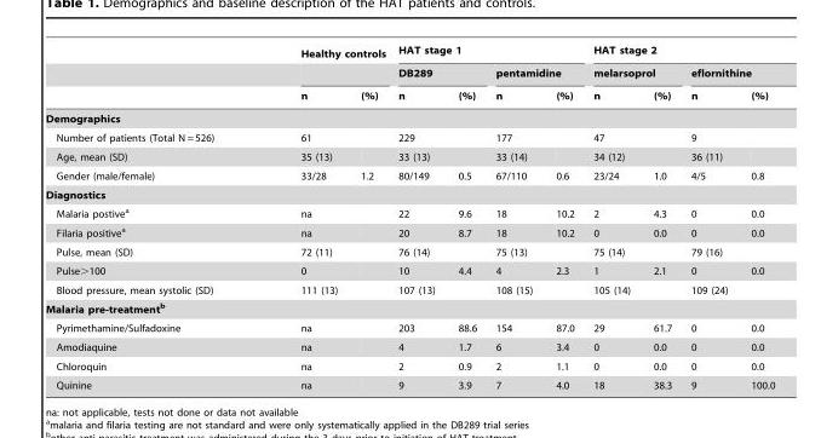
<table><thead><tr><td rowspan="3"></td><td colspan="2">Healthy controls</td><td colspan="4">HAT stage 1</td><td colspan="4">HAT stage 2</td></tr><tr><td rowspan="2">n</td><td rowspan="2">(%)</td><td colspan="2">DB289</td><td colspan="2">pentamidine</td><td colspan="2">melarsoprol</td><td colspan="2">eflornithine</td></tr><tr><td>n</td><td>(%)</td><td>n</td><td>(%)</td><td>n</td><td>(%)</td><td>n</td><td>(%)</td></tr></thead><tbody><tr><td colspan="11">Demographics</td></tr><tr><td>Number of patients (Total N = 526)</td><td>61</td><td></td><td>229</td><td></td><td>177</td><td></td><td>47</td><td></td><td>9</td><td></td></tr><tr><td>Age, mean (SD)</td><td>35 (13)</td><td></td><td>33 (13)</td><td></td><td>33 (14)</td><td></td><td>34 (12)</td><td></td><td>36 (11)</td><td></td></tr><tr><td>Gender (male/female)</td><td>33/28</td><td>1.2</td><td>80/149</td><td>0.5</td><td>67/110</td><td>0.6</td><td>23/24</td><td>1.0</td><td>4/5</td><td>0.8</td></tr><tr><td colspan="11">Diagnostics</td></tr><tr><td>Malaria postive<sup>a</sup></td><td>na</td><td></td><td>22</td><td>9.6</td><td>18</td><td>10.2</td><td>2</td><td>4.3</td><td>0</td><td>0.0</td></tr><tr><td>Filaria positive<sup>a</sup></td><td>na</td><td></td><td>20</td><td>8.7</td><td>18</td><td>10.2</td><td>0</td><td>0.0</td><td>0</td><td>0.0</td></tr><tr><td>Pulse, mean (SD)</td><td>72 (11)</td><td></td><td>76 (14)</td><td></td><td>75 (13)</td><td></td><td>75 (14)</td><td></td><td>79 (16)</td><td></td></tr><tr><td>Pulse&gt;100</td><td>0</td><td></td><td>10</td><td>4.4</td><td>4</td><td>2.3</td><td>1</td><td>2.1</td><td>0</td><td>0.0</td></tr><tr><td>Blood pressure, mean systolic (SD)</td><td>111 (13)</td><td></td><td>107 (13)</td><td></td><td>108 (15)</td><td></td><td>105 (14)</td><td></td><td>109 (24)</td><td></td></tr><tr><td colspan="11">Malaria pre-treatmentb</td></tr><tr><td>Pyrimethamine/Sulfadoxine</td><td>na</td><td></td><td>203</td><td>88.6</td><td>154</td><td>87.0</td><td>29</td><td>61.7</td><td>0</td><td>0.0</td></tr><tr><td>Amodiaquine</td><td>na</td><td></td><td>4</td><td>1.7</td><td>6</td><td>3.4</td><td>0</td><td>0.0</td><td>0</td><td>0.0</td></tr><tr><td>Chloroquin</td><td>na</td><td></td><td>2</td><td>0.9</td><td>2</td><td>1.1</td><td>0</td><td>0.0</td><td>0</td><td>0.0</td></tr><tr><td>Quinine</td><td>na</td><td></td><td>9</td><td>3.9</td><td>7</td><td>4.0</td><td>18</td><td>38.3</td><td>9</td><td>100.0</td></tr></tbody></table>